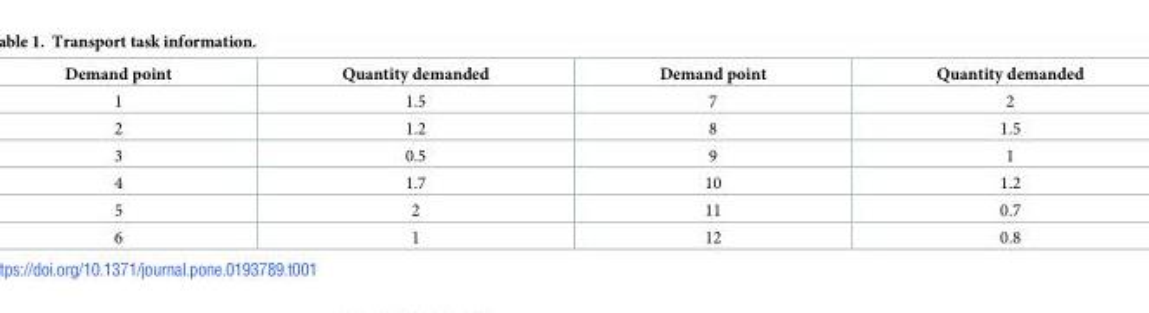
<table><thead><tr><td>Demand point</td><td>Quantity demanded</td><td>Demand point</td><td>Quantity demanded</td></tr></thead><tbody><tr><td>1</td><td>1.5</td><td>7</td><td>2</td></tr><tr><td>2</td><td>1.2</td><td>8</td><td>1.5</td></tr><tr><td>3</td><td>0.5</td><td>9</td><td>1</td></tr><tr><td>4</td><td>1.7</td><td>10</td><td>1.2</td></tr><tr><td>5</td><td>2</td><td>11</td><td>0.7</td></tr><tr><td>6</td><td>1</td><td>12</td><td>0.8</td></tr></tbody></table>